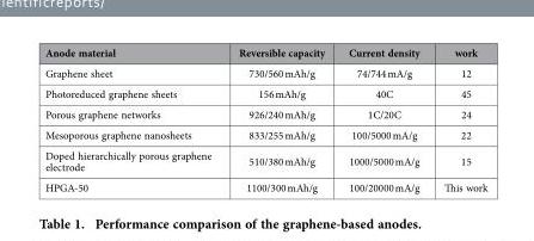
<table><thead><tr><td>Anode material</td><td>Reversible capacity</td><td>Current density</td><td>work</td></tr></thead><tbody><tr><td>Graphene sheet</td><td>730/560 mAh/g</td><td>74/744 mA/g</td><td>12</td></tr><tr><td>Photoreduced graphene sheets</td><td>156 mAh/g</td><td>40C</td><td>45</td></tr><tr><td>Porous graphene networks</td><td>926/240 mAh/g</td><td>1C/20C</td><td>24</td></tr><tr><td>Mesoporous graphene nanosheets</td><td>833/255 mAh/g</td><td>100/5000 mA/g</td><td>22</td></tr><tr><td>Doped hierarchically porous graphene electrode</td><td>510/380 mAh/g</td><td>1000/5000 mA/g</td><td>15</td></tr><tr><td>HPGA-50</td><td>1100/300 mAh/g</td><td>100/20000 mA/g</td><td>This work</td></tr></tbody></table>